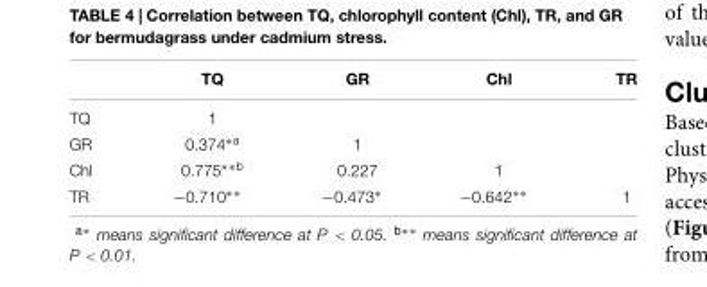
<table><thead><tr><td></td><td>TQ</td><td>GR</td><td>Chl</td><td>TR</td></tr></thead><tbody><tr><td>TQ</td><td>1</td><td></td><td></td><td></td></tr><tr><td>GR</td><td>0.374<sup>∗a</sup></td><td>1</td><td></td><td></td></tr><tr><td>Chl</td><td>0.775<sup>∗∗b</sup></td><td>0.227</td><td>1</td><td></td></tr><tr><td>TR</td><td>−0.710∗∗</td><td>−0.473∗</td><td>−0.642∗∗</td><td>1</td></tr></tbody></table>